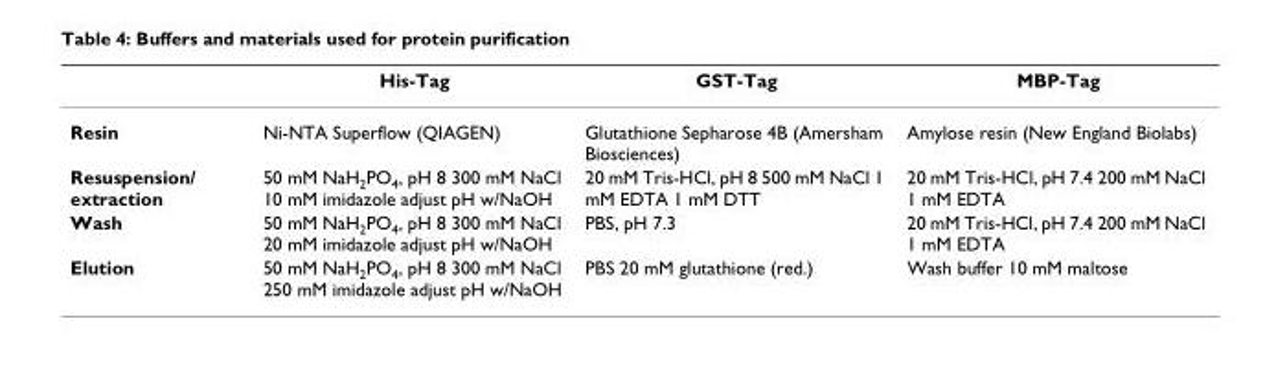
<table><thead><tr><td></td><td>His-Tag</td><td>GST-Tag</td><td>MBP-Tag</td></tr></thead><tbody><tr><td>Resin</td><td>Ni-NTA Superflow (QIAGEN)</td><td>Glutathione Sepharose 4B (Amersham Biosciences)</td><td>Amylose resin (New England Biolabs)</td></tr><tr><td>Resuspension/ extraction</td><td>50 mM NaH<sub>2</sub>PO<sub>4</sub>, pH 8 300 mM NaCl 10 mM imidazole adjust pH w/NaOH</td><td>20 mM Tris-HCl, pH 8 500 mM NaCl 1 mM EDTA 1 mM DTT</td><td>20 mM Tris-HCl, pH 7.4 200 mM NaCl 1 mM EDTA</td></tr><tr><td>Wash</td><td>50 mM NaH<sub>2</sub>PO<sub>4</sub>, pH 8 300 mM NaCl 20 mM imidazole adjust pH w/NaOH</td><td>PBS, pH 7.3</td><td>20 mM Tris-HCl, pH 7.4 200 mM NaCl 1 mM EDTA</td></tr><tr><td>Elution</td><td>50 mM NaH<sub>2</sub>PO<sub>4</sub>, pH 8 300 mM NaCl 250 mM imidazole adjust pH w/NaOH</td><td>PBS 20 mM glutathione (red.)</td><td>Wash buffer 10 mM maltose</td></tr></tbody></table>